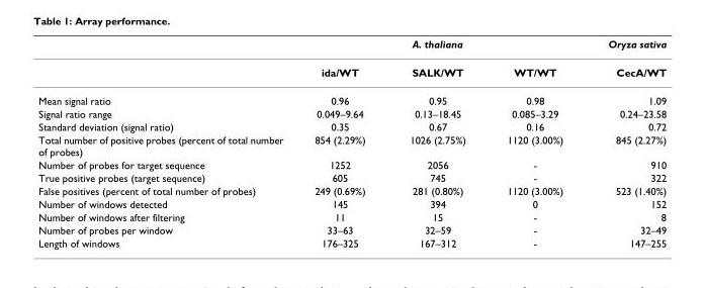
<table><thead><tr><td rowspan="2"></td><td colspan="3">A. thaliana</td><td rowspan="2">Oryza sativa CecA/WT</td></tr><tr><td>ida/WT</td><td>SALK/WT</td><td>WT/WT</td></tr></thead><tbody><tr><td>Mean signal ratio</td><td>0.96</td><td>0.95</td><td>0.98</td><td>1.09</td></tr><tr><td>Signal ratio range</td><td>0.049–9.64</td><td>0.13–18.45</td><td>0.085–3.29</td><td>0.24–23.58</td></tr><tr><td>Standard deviation (signal ratio)</td><td>0.35</td><td>0.67</td><td>0.16</td><td>0.72</td></tr><tr><td>Total number of positive probes (percent of total number of probes)</td><td>854 (2.29%)</td><td>1026 (2.75%)</td><td>1120 (3.00%)</td><td>845 (2.27%)</td></tr><tr><td>Number of probes for target sequence</td><td>1252</td><td>2056</td><td>-</td><td>910</td></tr><tr><td>True positive probes (target sequence)</td><td>605</td><td>745</td><td>-</td><td>322</td></tr><tr><td>False positives (percent of total number of probes)</td><td>249 (0.69%)</td><td>281 (0.80%)</td><td>1120 (3.00%)</td><td>523 (1.40%)</td></tr><tr><td>Number of windows detected</td><td>145</td><td>394</td><td>0</td><td>152</td></tr><tr><td>Number of windows after filtering</td><td>11</td><td>15</td><td>-</td><td>8</td></tr><tr><td>Number of probes per window</td><td>33–63</td><td>32–59</td><td>-</td><td>32–49</td></tr><tr><td>Length of windows</td><td>176–325</td><td>167–312</td><td>-</td><td>147–255</td></tr></tbody></table>